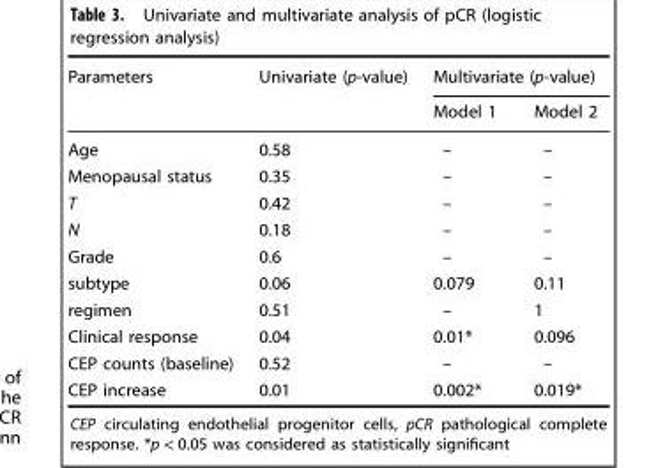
<table><thead><tr><td rowspan="2">Parameters</td><td rowspan="2">Univariate (p-value)</td><td colspan="2">Multivariate (p-value)</td></tr><tr><td>Model 1</td><td>Model 2</td></tr></thead><tbody><tr><td>Age</td><td>0.58</td><td>–</td><td>–</td></tr><tr><td>Menopausal status</td><td>0.35</td><td>–</td><td>–</td></tr><tr><td>T</td><td>0.42</td><td>–</td><td>–</td></tr><tr><td>N</td><td>0.18</td><td>–</td><td>–</td></tr><tr><td>Grade</td><td>0.6</td><td>–</td><td>–</td></tr><tr><td>subtype</td><td>0.06</td><td>0.079</td><td>0.11</td></tr><tr><td>regimen</td><td>0.51</td><td>–</td><td>1</td></tr><tr><td>Clinical response</td><td>0.04</td><td>0.01*</td><td>0.096</td></tr><tr><td>CEP counts (baseline)</td><td>0.52</td><td>–</td><td>–</td></tr><tr><td>CEP increase</td><td>0.01</td><td>0.002*</td><td>0.019*</td></tr></tbody></table>